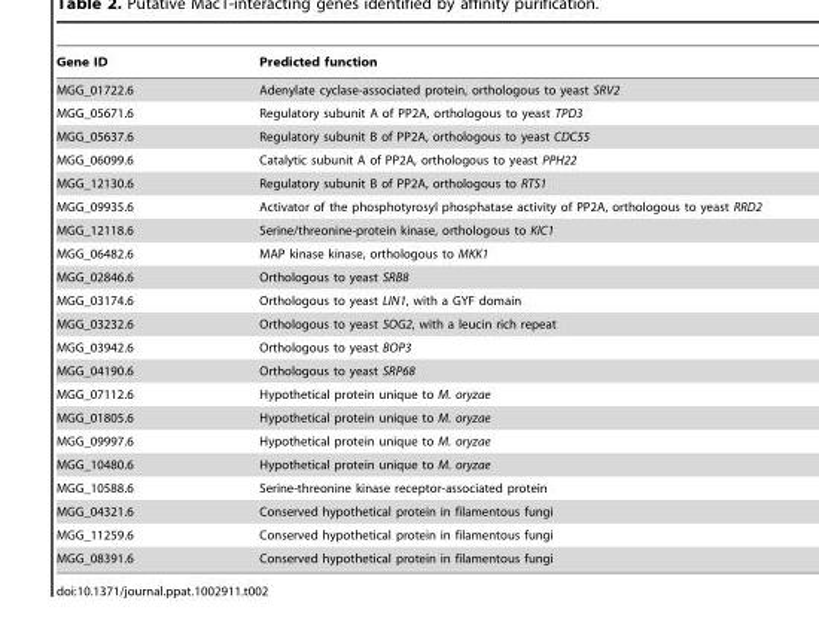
<table><thead><tr><td>Gene ID</td><td>Predicted function</td></tr></thead><tbody><tr><td>MGG_01722.6</td><td>Adenylate cyclase-associated protein, orthologous to yeast SRV2</td></tr><tr><td>MGG_05671.6</td><td>Regulatory subunit A of PP2A, orthologous to yeast TPD3</td></tr><tr><td>MGG_05637.6</td><td>Regulatory subunit B of PP2A, orthologous to yeast CDC55</td></tr><tr><td>MGG_06099.6</td><td>Catalytic subunit A of PP2A, orthologous to yeast PPH22</td></tr><tr><td>MGG_12130.6</td><td>Regulatory subunit B of PP2A, orthologous to RTS1</td></tr><tr><td>MGG_09935.6</td><td>Activator of the phosphotyrosyl phosphatase activity of PP2A, orthologous to yeast RRD2</td></tr><tr><td>MGG_12118.6</td><td>Serine/threonine-protein kinase, orthologous to KIC1</td></tr><tr><td>MGG_06482.6</td><td>MAP kinase kinase, orthologous to MKK1</td></tr><tr><td>MGG_02846.6</td><td>Orthologous to yeast SRB8</td></tr><tr><td>MGG_03174.6</td><td>Orthologous to yeast LIN1, with a GYF domain</td></tr><tr><td>MGG_03232.6</td><td>Orthologous to yeast SOG2, with a leucin rich repeat</td></tr><tr><td>MGG_03942.6</td><td>Orthologous to yeast BOP3</td></tr><tr><td>MGG_04190.6</td><td>Orthologous to yeast SRP68</td></tr><tr><td>MGG_07112.6</td><td>Hypothetical protein unique to M. oryzae</td></tr><tr><td>MGG_01805.6</td><td>Hypothetical protein unique to M. oryzae</td></tr><tr><td>MGG_09997.6</td><td>Hypothetical protein unique to M. oryzae</td></tr><tr><td>MGG_10480.6</td><td>Hypothetical protein unique to M. oryzae</td></tr><tr><td>MGG_10588.6</td><td>Serine-threonine kinase receptor-associated protein</td></tr><tr><td>MGG_04321.6</td><td>Conserved hypothetical protein in filamentous fungi</td></tr><tr><td>MGG_11259.6</td><td>Conserved hypothetical protein in filamentous fungi</td></tr><tr><td>MGG_08391.6</td><td>Conserved hypothetical protein in filamentous fungi</td></tr></tbody></table>